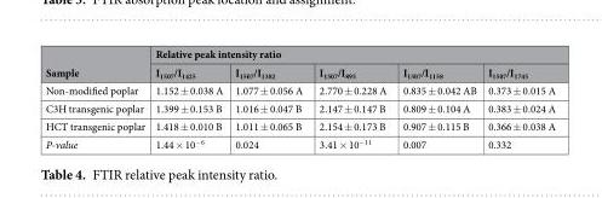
<table><thead><tr><td rowspan="2">Sample</td><td colspan="5">Relative peak intensity ratio</td></tr><tr><td>I<sub>1507</sub>/I<sub>1425</sub></td><td>I<sub>1507</sub>/I<sub>1382</sub></td><td>I<sub>1507</sub>/I<sub>895</sub></td><td>I<sub>1507</sub>/I<sub>1158</sub></td><td>I<sub>1507</sub>/I<sub>1745</sub></td></tr></thead><tbody><tr><td>Non-modified poplar</td><td>1.152 ± 0.038 A</td><td>1.077 ± 0.056 A</td><td>2.770 ± 0.228 A</td><td>0.835 ± 0.042 AB</td><td>0.373 ± 0.015 A</td></tr><tr><td>C3H transgenic poplar</td><td>1.399 ± 0.153 B</td><td>1.016 ± 0.047 B</td><td>2.147 ± 0.147 B</td><td>0.809 ± 0.104 A</td><td>0.383 ± 0.024 A</td></tr><tr><td>HCT transgenic poplar</td><td>1.418 ± 0.010 B</td><td>1.011 ± 0.065 B</td><td>2.154 ± 0.173 B</td><td>0.907 ± 0.115 B</td><td>0.366 ± 0.038 A</td></tr><tr><td>P-value</td><td>1.44 × 10<sup>−6</sup></td><td>0.024</td><td>3.41 × 10<sup>−11</sup></td><td>0.007</td><td>0.332</td></tr></tbody></table>